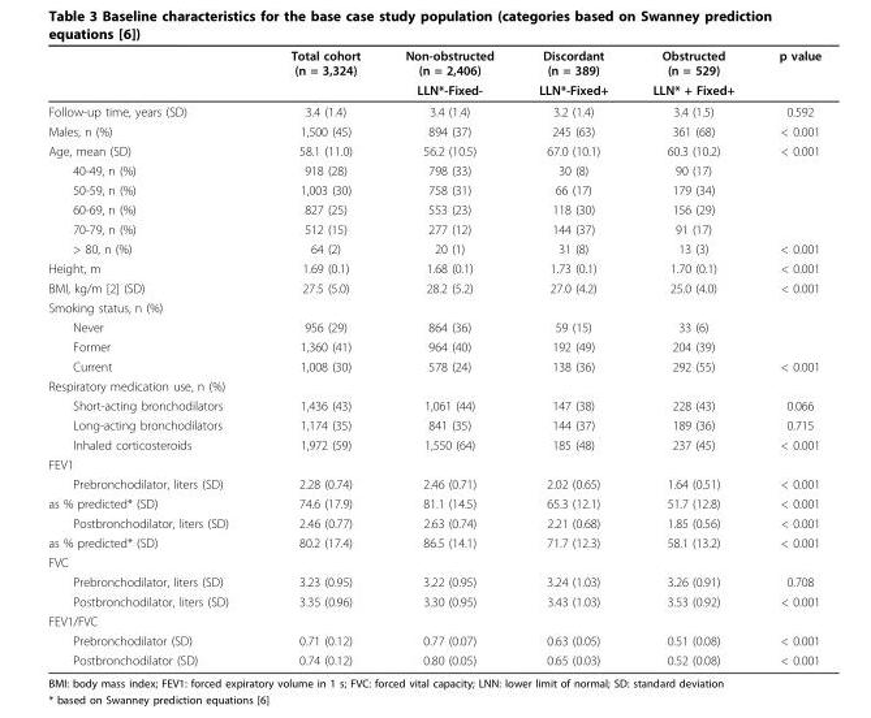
<table><thead><tr><td rowspan="2"></td><td rowspan="2">Total cohort (n = 3,324)</td><td rowspan="2">Non-obstructed (n = 2,406) LLN*-Fixed-</td><td rowspan="2">Discordant (n = 389) LLN*-Fixed+</td><td rowspan="2">Obstructed (n = 529) LLN* + Fixed+</td><td rowspan="2">p value</td></tr><tr></tr></thead><tbody><tr><td>Follow-up time, years (SD)</td><td>3.4 (1.4)</td><td>3.4 (1.4)</td><td>3.2 (1.4)</td><td>3.4 (1.5)</td><td>0.592</td></tr><tr><td>Males, n (%)</td><td>1,500 (45)</td><td>894 (37)</td><td>245 (63)</td><td>361 (68)</td><td>&lt; 0.001</td></tr><tr><td>Age, mean (SD)</td><td>58.1 (11.0)</td><td>56.2 (10.5)</td><td>67.0 (10.1)</td><td>60.3 (10.2)</td><td>&lt; 0.001</td></tr><tr><td>40-49, n (%)</td><td>918 (28)</td><td>798 (33)</td><td>30 (8)</td><td>90 (17)</td><td></td></tr><tr><td>50-59, n (%)</td><td>1,003 (30)</td><td>758 (31)</td><td>66 (17)</td><td>179 (34)</td><td></td></tr><tr><td>60-69, n (%)</td><td>827 (25)</td><td>553 (23)</td><td>118 (30)</td><td>156 (29)</td><td></td></tr><tr><td>70-79, n (%)</td><td>512 (15)</td><td>277 (12)</td><td>144 (37)</td><td>91 (17)</td><td></td></tr><tr><td>&gt; 80, n (%)</td><td>64 (2)</td><td>20 (1)</td><td>31 (8)</td><td>13 (3)</td><td>&lt; 0.001</td></tr><tr><td>Height, m</td><td>1.69 (0.1)</td><td>1.68 (0.1)</td><td>1.73 (0.1)</td><td>1.70 (0.1)</td><td>&lt; 0.001</td></tr><tr><td>BMI, kg/m [2] (SD)</td><td>27.5 (5.0)</td><td>28.2 (5.2)</td><td>27.0 (4.2)</td><td>25.0 (4.0)</td><td>&lt; 0.001</td></tr><tr><td colspan="6">Smoking status, n (%)</td></tr><tr><td>Never</td><td>956 (29)</td><td>864 (36)</td><td>59 (15)</td><td>33 (6)</td><td></td></tr><tr><td>Former</td><td>1,360 (41)</td><td>964 (40)</td><td>192 (49)</td><td>204 (39)</td><td></td></tr><tr><td>Current</td><td>1,008 (30)</td><td>578 (24)</td><td>138 (36)</td><td>292 (55)</td><td>&lt; 0.001</td></tr><tr><td colspan="6">Respiratory medication use, n (%)</td></tr><tr><td>Short-acting bronchodilators</td><td>1,436 (43)</td><td>1,061 (44)</td><td>147 (38)</td><td>228 (43)</td><td>0.066</td></tr><tr><td>Long-acting bronchodilators</td><td>1,174 (35)</td><td>841 (35)</td><td>144 (37)</td><td>189 (36)</td><td>0.715</td></tr><tr><td>Inhaled corticosteroids</td><td>1,972 (59)</td><td>1,550 (64)</td><td>185 (48)</td><td>237 (45)</td><td>&lt; 0.001</td></tr><tr><td colspan="6">FEV1</td></tr><tr><td>Prebronchodilator, liters (SD)</td><td>2.28 (0.74)</td><td>2.46 (0.71)</td><td>2.02 (0.65)</td><td>1.64 (0.51)</td><td>&lt; 0.001</td></tr><tr><td>as % predicted* (SD)</td><td>74.6 (17.9)</td><td>81.1 (14.5)</td><td>65.3 (12.1)</td><td>51.7 (12.8)</td><td>&lt; 0.001</td></tr><tr><td>Postbronchodilator, liters (SD)</td><td>2.46 (0.77)</td><td>2.63 (0.74)</td><td>2.21 (0.68)</td><td>1.85 (0.56)</td><td>&lt; 0.001</td></tr><tr><td>as % predicted* (SD)</td><td>80.2 (17.4)</td><td>86.5 (14.1)</td><td>71.7 (12.3)</td><td>58.1 (13.2)</td><td>&lt; 0.001</td></tr><tr><td colspan="6">FVC</td></tr><tr><td>Prebronchodilator, liters (SD)</td><td>3.23 (0.95)</td><td>3.22 (0.95)</td><td>3.24 (1.03)</td><td>3.26 (0.91)</td><td>0.708</td></tr><tr><td>Postbronchodilator, liters (SD)</td><td>3.35 (0.96)</td><td>3.30 (0.95)</td><td>3.43 (1.03)</td><td>3.53 (0.92)</td><td>&lt; 0.001</td></tr><tr><td colspan="6">FEV1/FVC</td></tr><tr><td>Prebronchodilator (SD)</td><td>0.71 (0.12)</td><td>0.77 (0.07)</td><td>0.63 (0.05)</td><td>0.51 (0.08)</td><td>&lt; 0.001</td></tr><tr><td>Postbronchodilator (SD)</td><td>0.74 (0.12)</td><td>0.80 (0.05)</td><td>0.65 (0.03)</td><td>0.52 (0.08)</td><td>&lt; 0.001</td></tr></tbody></table>